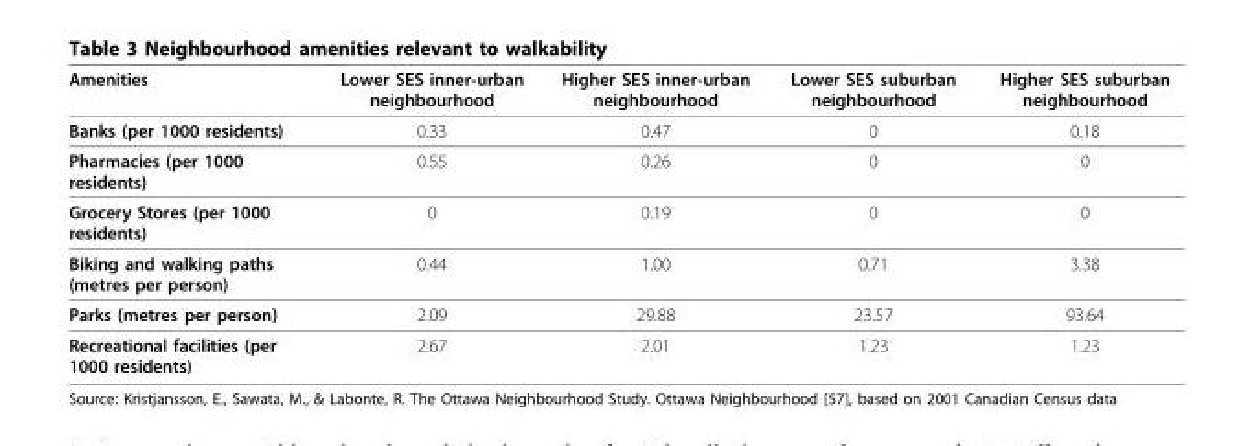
<table><thead><tr><td>Amenities</td><td>Lower SES inner-urban neighbourhood</td><td>Higher SES inner-urban neighbourhood</td><td>Lower SES suburban neighbourhood</td><td>Higher SES suburban neighbourhood</td></tr></thead><tbody><tr><td>Banks (per 1000 residents)</td><td>0.33</td><td>0.47</td><td>0</td><td>0.18</td></tr><tr><td>Pharmacies (per 1000 residents)</td><td>0.55</td><td>0.26</td><td>0</td><td>0</td></tr><tr><td>Grocery Stores (per 1000 residents)</td><td>0</td><td>0.19</td><td>0</td><td>0</td></tr><tr><td>Biking and walking paths (metres per person)</td><td>0.44</td><td>1.00</td><td>0.71</td><td>3.38</td></tr><tr><td>Parks (metres per person)</td><td>2.09</td><td>29.88</td><td>23.57</td><td>93.64</td></tr><tr><td>Recreational facilities (per 1000 residents)</td><td>2.67</td><td>2.01</td><td>1.23</td><td>1.23</td></tr></tbody></table>